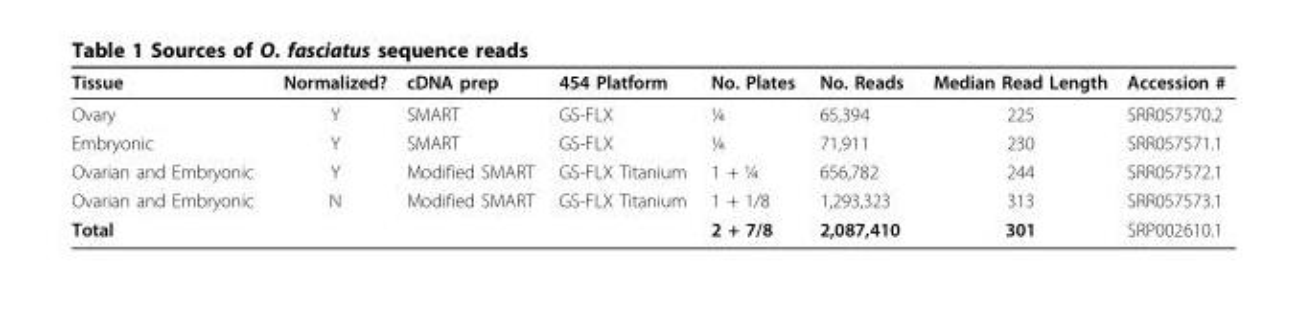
<table><thead><tr><td>Tissue</td><td>Normalized?</td><td>cDNA prep</td><td>454 Platform</td><td>No. Plates</td><td>No. Reads</td><td>Median Read Length</td><td>Accession #</td></tr></thead><tbody><tr><td>Ovary</td><td>Y</td><td>SMART</td><td>GS-FLX</td><td>¼</td><td>65,394</td><td>225</td><td>SRR057570.2</td></tr><tr><td>Embryonic</td><td>Y</td><td>SMART</td><td>GS-FLX</td><td>¼</td><td>71,911</td><td>230</td><td>SRR057571.1</td></tr><tr><td>Ovarian and Embryonic</td><td>Y</td><td>Modified SMART</td><td>GS-FLX Titanium</td><td>1 + ¼</td><td>656,782</td><td>244</td><td>SRR057572.1</td></tr><tr><td>Ovarian and Embryonic</td><td>N</td><td>Modified SMART</td><td>GS-FLX Titanium</td><td>1 + 1/8</td><td>1,293,323</td><td>313</td><td>SRR057573.1</td></tr><tr><td>Total</td><td></td><td></td><td></td><td>2 + 7/8</td><td>2,087,410</td><td>301</td><td>SRP002610.1</td></tr></tbody></table>